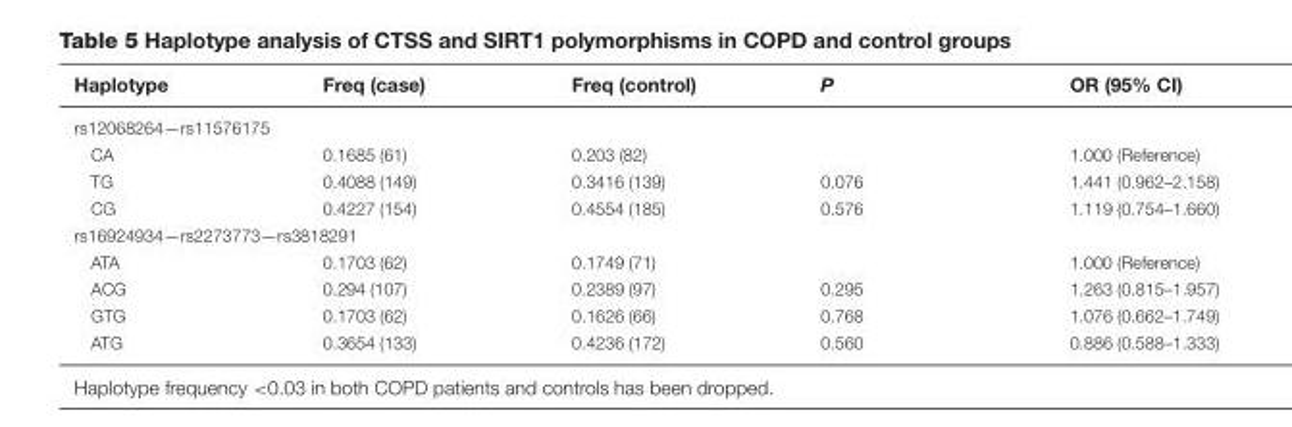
<table><thead><tr><td>Haplotype</td><td>Freq (case)</td><td>Freq (control)</td><td>P</td><td>OR (95% CI)</td></tr></thead><tbody><tr><td colspan="5">rs12068264—rs11576175</td></tr><tr><td>CA</td><td>0.1685 (61)</td><td>0.203 (82)</td><td></td><td>1.000 (Reference)</td></tr><tr><td>TG</td><td>0.4088 (149)</td><td>0.3416 (139)</td><td>0.076</td><td>1.441 (0.962–2.158)</td></tr><tr><td>CG</td><td>0.4227 (154)</td><td>0.4554 (185)</td><td>0.576</td><td>1.119 (0.754–1.660)</td></tr><tr><td colspan="5">rs16924934—rs2273773—rs3818291</td></tr><tr><td>ATA</td><td>0.1703 (62)</td><td>0.1749 (71)</td><td></td><td>1.000 (Reference)</td></tr><tr><td>ACG</td><td>0.294 (107)</td><td>0.2389 (97)</td><td>0.295</td><td>1.263 (0.815–1.957)</td></tr><tr><td>GTG</td><td>0.1703 (62)</td><td>0.1626 (66)</td><td>0.768</td><td>1.076 (0.662–1.749)</td></tr><tr><td>ATG</td><td>0.3654 (133)</td><td>0.4236 (172)</td><td>0.560</td><td>0.886 (0.588–1.333)</td></tr></tbody></table>